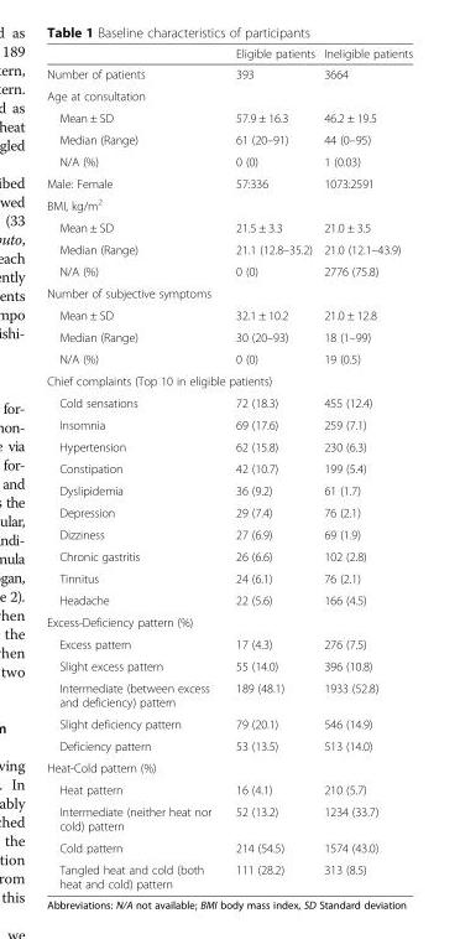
<table><thead><tr><td></td><td>Eligible patients</td><td>Ineligible patients</td></tr></thead><tbody><tr><td>Number of patients</td><td>393</td><td>3664</td></tr><tr><td colspan="3">Age at consultation</td></tr><tr><td>Mean ± SD</td><td>57.9 ± 16.3</td><td>46.2 ± 19.5</td></tr><tr><td>Median (Range)</td><td>61 (20–91)</td><td>44 (0–95)</td></tr><tr><td>N/A (%)</td><td>0 (0)</td><td>1 (0.03)</td></tr><tr><td>Male: Female</td><td>57:336</td><td>1073:2591</td></tr><tr><td colspan="3">BMI, kg/m<sup>2</sup></td></tr><tr><td>Mean ± SD</td><td>21.5 ± 3.3</td><td>21.0 ± 3.5</td></tr><tr><td>Median (Range)</td><td>21.1 (12.8–35.2)</td><td>21.0 (12.1–43.9)</td></tr><tr><td>N/A (%)</td><td>0 (0)</td><td>2776 (75.8)</td></tr><tr><td colspan="3">Number of subjective symptoms</td></tr><tr><td>Mean ± SD</td><td>32.1 ± 10.2</td><td>21.0 ± 12.8</td></tr><tr><td>Median (Range)</td><td>30 (20–93)</td><td>18 (1–99)</td></tr><tr><td>N/A (%)</td><td>0 (0)</td><td>19 (0.5)</td></tr><tr><td colspan="3">Chief complaints (Top 10 in eligible patients)</td></tr><tr><td>Cold sensations</td><td>72 (18.3)</td><td>455 (12.4)</td></tr><tr><td>Insomnia</td><td>69 (17.6)</td><td>259 (7.1)</td></tr><tr><td>Hypertension</td><td>62 (15.8)</td><td>230 (6.3)</td></tr><tr><td>Constipation</td><td>42 (10.7)</td><td>199 (5.4)</td></tr><tr><td>Dyslipidemia</td><td>36 (9.2)</td><td>61 (1.7)</td></tr><tr><td>Depression</td><td>29 (7.4)</td><td>76 (2.1)</td></tr><tr><td>Dizziness</td><td>27 (6.9)</td><td>69 (1.9)</td></tr><tr><td>Chronic gastritis</td><td>26 (6.6)</td><td>102 (2.8)</td></tr><tr><td>Tinnitus</td><td>24 (6.1)</td><td>76 (2.1)</td></tr><tr><td>Headache</td><td>22 (5.6)</td><td>166 (4.5)</td></tr><tr><td colspan="3">Excess-Deficiency pattern (%)</td></tr><tr><td>Excess pattern</td><td>17 (4.3)</td><td>276 (7.5)</td></tr><tr><td>Slight excess pattern</td><td>55 (14.0)</td><td>396 (10.8)</td></tr><tr><td>Intermediate (between excess and deficiency) pattern</td><td>189 (48.1)</td><td>1933 (52.8)</td></tr><tr><td>Slight deficiency pattern</td><td>79 (20.1)</td><td>546 (14.9)</td></tr><tr><td>Deficiency pattern</td><td>53 (13.5)</td><td>513 (14.0)</td></tr><tr><td colspan="3">Heat-Cold pattern (%)</td></tr><tr><td>Heat pattern</td><td>16 (4.1)</td><td>210 (5.7)</td></tr><tr><td>Intermediate (neither heat nor cold) pattern</td><td>52 (13.2)</td><td>1234 (33.7)</td></tr><tr><td>Cold pattern</td><td>214 (54.5)</td><td>1574 (43.0)</td></tr><tr><td>Tangled heat and cold (both heat and cold) pattern</td><td>111 (28.2)</td><td>313 (8.5)</td></tr></tbody></table>